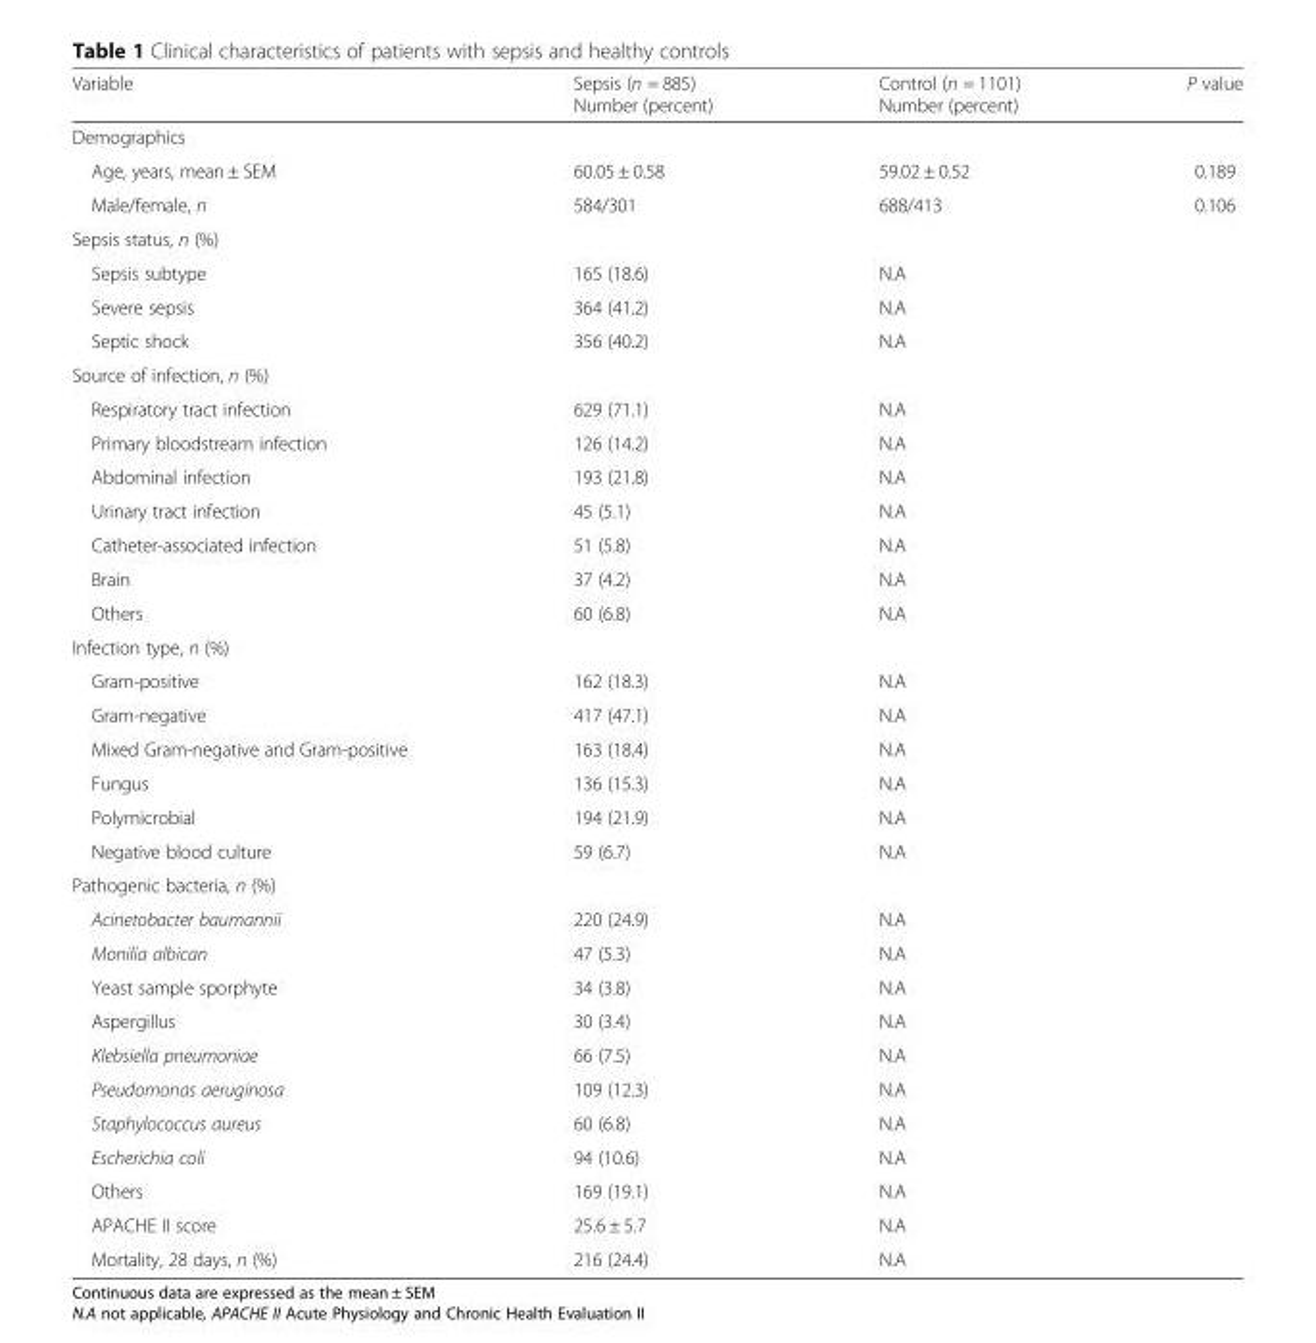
<table><thead><tr><td>Variable</td><td>Sepsis (n = 885) Number (percent)</td><td>Control (n = 1101) Number (percent)</td><td>P value</td></tr></thead><tbody><tr><td colspan="4">Demographics</td></tr><tr><td>Age, years, mean ± SEM</td><td>60.05 ± 0.58</td><td>59.02 ± 0.52</td><td>0.189</td></tr><tr><td>Male/female, n</td><td>584/301</td><td>688/413</td><td>0.106</td></tr><tr><td colspan="4">Sepsis status, n (%)</td></tr><tr><td>Sepsis subtype</td><td>165 (18.6)</td><td>N.A</td><td></td></tr><tr><td>Severe sepsis</td><td>364 (41.2)</td><td>N.A</td><td></td></tr><tr><td>Septic shock</td><td>356 (40.2)</td><td>N.A</td><td></td></tr><tr><td colspan="4">Source of infection, n (%)</td></tr><tr><td>Respiratory tract infection</td><td>629 (71.1)</td><td>N.A</td><td></td></tr><tr><td>Primary bloodstream infection</td><td>126 (14.2)</td><td>N.A</td><td></td></tr><tr><td>Abdominal infection</td><td>193 (21.8)</td><td>N.A</td><td></td></tr><tr><td>Urinary tract infection</td><td>45 (5.1)</td><td>N.A</td><td></td></tr><tr><td>Catheter-associated infection</td><td>51 (5.8)</td><td>N.A</td><td></td></tr><tr><td>Brain</td><td>37 (4.2)</td><td>N.A</td><td></td></tr><tr><td>Others</td><td>60 (6.8)</td><td>N.A</td><td></td></tr><tr><td colspan="4">Infection type, n (%)</td></tr><tr><td>Gram-positive</td><td>162 (18.3)</td><td>N.A</td><td></td></tr><tr><td>Gram-negative</td><td>417 (47.1)</td><td>N.A</td><td></td></tr><tr><td>Mixed Gram-negative and Gram-positive</td><td>163 (18.4)</td><td>N.A</td><td></td></tr><tr><td>Fungus</td><td>136 (15.3)</td><td>N.A</td><td></td></tr><tr><td>Polymicrobial</td><td>194 (21.9)</td><td>N.A</td><td></td></tr><tr><td>Negative blood culture</td><td>59 (6.7)</td><td>N.A</td><td></td></tr><tr><td colspan="4">Pathogenic bacteria, n (%)</td></tr><tr><td>Acinetobacter baumannii</td><td>220 (24.9)</td><td>N.A</td><td></td></tr><tr><td>Monilia albican</td><td>47 (5.3)</td><td>N.A</td><td></td></tr><tr><td>Yeast sample sporphyte</td><td>34 (3.8)</td><td>N.A</td><td></td></tr><tr><td>Aspergillus</td><td>30 (3.4)</td><td>N.A</td><td></td></tr><tr><td>Klebsiella pneumoniae</td><td>66 (7.5)</td><td>N.A</td><td></td></tr><tr><td>Pseudomonas aeruginosa</td><td>109 (12.3)</td><td>N.A</td><td></td></tr><tr><td>Staphylococcus aureus</td><td>60 (6.8)</td><td>N.A</td><td></td></tr><tr><td>Escherichia coli</td><td>94 (10.6)</td><td>N.A</td><td></td></tr><tr><td>Others</td><td>169 (19.1)</td><td>N.A</td><td></td></tr><tr><td>APACHE II score</td><td>25.6 ± 5.7</td><td>N.A</td><td></td></tr><tr><td>Mortality, 28 days, n (%)</td><td>216 (24.4)</td><td>N.A</td><td></td></tr></tbody></table>